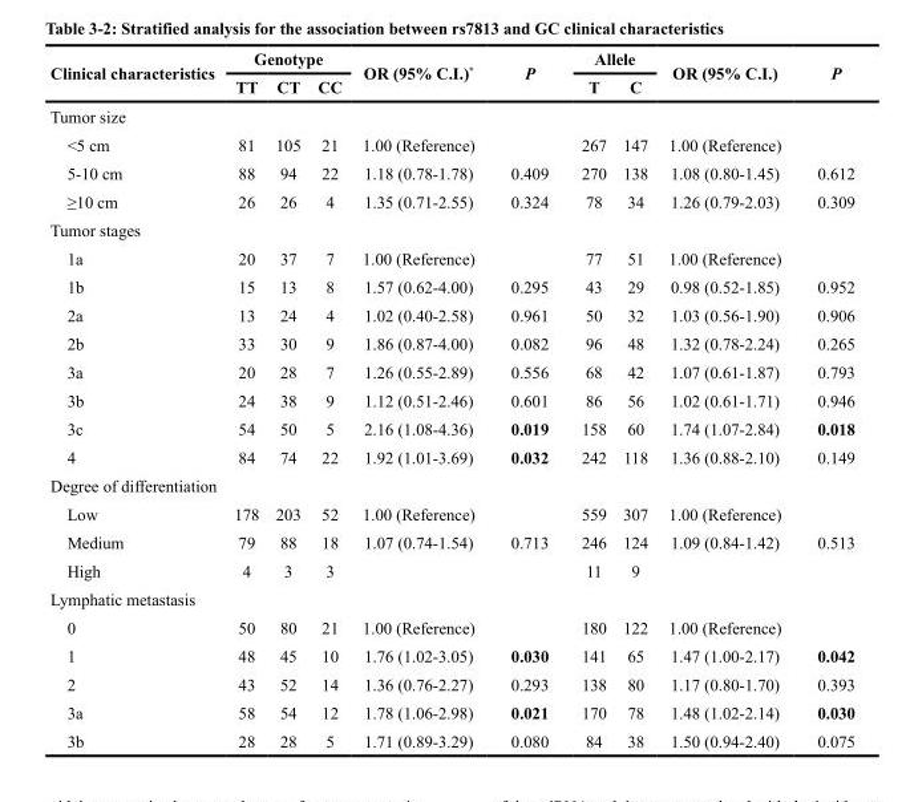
<table><thead><tr><td rowspan="2">Clinical characteristics</td><td colspan="3">Genotype</td><td rowspan="2">OR (95% C.I.)*</td><td rowspan="2">P</td><td colspan="2">Allele</td><td rowspan="2">OR (95% C.I.)</td><td rowspan="2">P</td></tr><tr><td>TT</td><td>CT</td><td>CC</td><td>T</td><td>C</td></tr></thead><tbody><tr><td colspan="10">Tumor size</td></tr><tr><td>&lt;5 cm</td><td>81</td><td>105</td><td>21</td><td>1.00 (Reference)</td><td></td><td>267</td><td>147</td><td>1.00 (Reference)</td><td></td></tr><tr><td>5-10 cm</td><td>88</td><td>94</td><td>22</td><td>1.18 (0.78-1.78)</td><td>0.409</td><td>270</td><td>138</td><td>1.08 (0.80-1.45)</td><td>0.612</td></tr><tr><td>≥10 cm</td><td>26</td><td>26</td><td>4</td><td>1.35 (0.71-2.55)</td><td>0.324</td><td>78</td><td>34</td><td>1.26 (0.79-2.03)</td><td>0.309</td></tr><tr><td colspan="10">Tumor stages</td></tr><tr><td>1a</td><td>20</td><td>37</td><td>7</td><td>1.00 (Reference)</td><td></td><td>77</td><td>51</td><td>1.00 (Reference)</td><td></td></tr><tr><td>1b</td><td>15</td><td>13</td><td>8</td><td>1.57 (0.62-4.00)</td><td>0.295</td><td>43</td><td>29</td><td>0.98 (0.52-1.85)</td><td>0.952</td></tr><tr><td>2a</td><td>13</td><td>24</td><td>4</td><td>1.02 (0.40-2.58)</td><td>0.961</td><td>50</td><td>32</td><td>1.03 (0.56-1.90)</td><td>0.906</td></tr><tr><td>2b</td><td>33</td><td>30</td><td>9</td><td>1.86 (0.87-4.00)</td><td>0.082</td><td>96</td><td>48</td><td>1.32 (0.78-2.24)</td><td>0.265</td></tr><tr><td>3a</td><td>20</td><td>28</td><td>7</td><td>1.26 (0.55-2.89)</td><td>0.556</td><td>68</td><td>42</td><td>1.07 (0.61-1.87)</td><td>0.793</td></tr><tr><td>3b</td><td>24</td><td>38</td><td>9</td><td>1.12 (0.51-2.46)</td><td>0.601</td><td>86</td><td>56</td><td>1.02 (0.61-1.71)</td><td>0.946</td></tr><tr><td>3c</td><td>54</td><td>50</td><td>5</td><td>2.16 (1.08-4.36)</td><td>0.019</td><td>158</td><td>60</td><td>1.74 (1.07-2.84)</td><td>0.018</td></tr><tr><td>4</td><td>84</td><td>74</td><td>22</td><td>1.92 (1.01-3.69)</td><td>0.032</td><td>242</td><td>118</td><td>1.36 (0.88-2.10)</td><td>0.149</td></tr><tr><td colspan="10">Degree of differentiation</td></tr><tr><td>Low</td><td>178</td><td>203</td><td>52</td><td>1.00 (Reference)</td><td></td><td>559</td><td>307</td><td>1.00 (Reference)</td><td></td></tr><tr><td>Medium</td><td>79</td><td>88</td><td>18</td><td>1.07 (0.74-1.54)</td><td>0.713</td><td>246</td><td>124</td><td>1.09 (0.84-1.42)</td><td>0.513</td></tr><tr><td>High</td><td>4</td><td>3</td><td>3</td><td></td><td></td><td>11</td><td>9</td><td></td><td></td></tr><tr><td colspan="10">Lymphatic metastasis</td></tr><tr><td>0</td><td>50</td><td>80</td><td>21</td><td>1.00 (Reference)</td><td></td><td>180</td><td>122</td><td>1.00 (Reference)</td><td></td></tr><tr><td>1</td><td>48</td><td>45</td><td>10</td><td>1.76 (1.02-3.05)</td><td>0.030</td><td>141</td><td>65</td><td>1.47 (1.00-2.17)</td><td>0.042</td></tr><tr><td>2</td><td>43</td><td>52</td><td>14</td><td>1.36 (0.76-2.27)</td><td>0.293</td><td>138</td><td>80</td><td>1.17 (0.80-1.70)</td><td>0.393</td></tr><tr><td>3a</td><td>58</td><td>54</td><td>12</td><td>1.78 (1.06-2.98)</td><td>0.021</td><td>170</td><td>78</td><td>1.48 (1.02-2.14)</td><td>0.030</td></tr><tr><td>3b</td><td>28</td><td>28</td><td>5</td><td>1.71 (0.89-3.29)</td><td>0.080</td><td>84</td><td>38</td><td>1.50 (0.94-2.40)</td><td>0.075</td></tr></tbody></table>